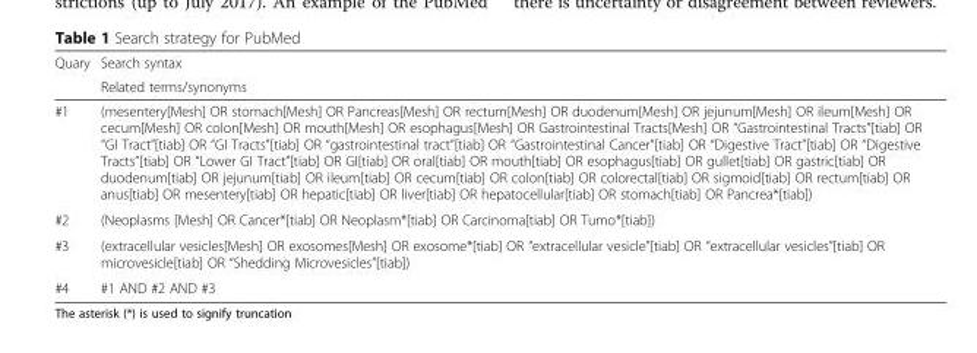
<table><thead><tr><td rowspan="2">Quary</td><td rowspan="2">Search syntax Related terms/synonyms</td></tr><tr></tr></thead><tbody><tr><td>#1</td><td>(mesentery[Mesh] OR stomach[Mesh] OR Pancreas[Mesh] OR rectum[Mesh] OR duodenum[Mesh] OR jejunum[Mesh] OR ileum[Mesh] OR cecum[Mesh] OR colon[Mesh] OR mouth[Mesh] OR esophagus[Mesh] OR Gastrointestinal Tracts[Mesh] OR “Gastrointestinal Tracts”[tiab] OR “GI Tract”[tiab] OR “GI Tracts”[tiab] OR “gastrointestinal tract”[tiab] OR “Gastrointestinal Cancer”[tiab] OR “Digestive Tract”[tiab] OR “Digestive Tracts”[tiab] OR “Lower GI Tract”[tiab] OR GI[tiab] OR oral[tiab] OR mouth[tiab] OR esophagus[tiab] OR gullet[tiab] OR gastric[tiab] OR duodenum[tiab] OR jejunum[tiab] OR ileum[tiab] OR cecum[tiab] OR colon[tiab] OR colorectal[tiab] OR sigmoid[tiab] OR rectum[tiab] OR anus[tiab] OR mesentery[tiab] OR hepatic[tiab] OR liver[tiab] OR hepatocellular[tiab] OR stomach[tiab] OR Pancrea*[tiab])</td></tr><tr><td>#2</td><td>(Neoplasms [Mesh] OR Cancer*[tiab] OR Neoplasm*[tiab] OR Carcinoma[tiab] OR Tumo*[tiab])</td></tr><tr><td>#3</td><td>(extracellular vesicles[Mesh] OR exosomes[Mesh] OR exosome*[tiab] OR “extracellular vesicle”[tiab] OR “extracellular vesicles”[tiab] OR microvesicle[tiab] OR “Shedding Microvesicles”[tiab])</td></tr><tr><td>#4</td><td>#1 AND #2 AND #3</td></tr></tbody></table>